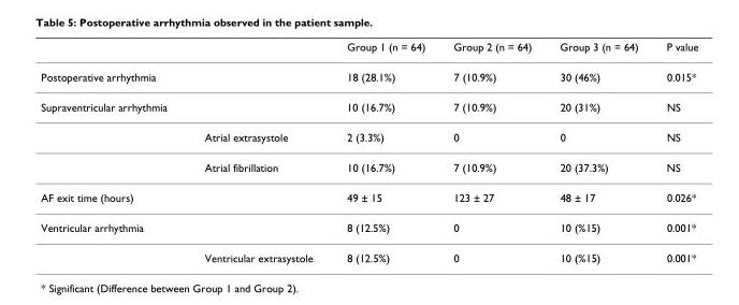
<table><thead><tr><td></td><td></td><td>Group 1 (n = 64)</td><td>Group 2 (n = 64)</td><td>Group 3 (n = 64)</td><td>P value</td></tr></thead><tbody><tr><td>Postoperative arrhythmia</td><td></td><td>18 (28.1%)</td><td>7 (10.9%)</td><td>30 (46%)</td><td>0.015*</td></tr><tr><td rowspan="3">Supraventricular arrhythmia</td><td></td><td>10 (16.7%)</td><td>7 (10.9%)</td><td>20 (31%)</td><td>NS</td></tr><tr><td>Atrial extrasystole</td><td>2 (3.3%)</td><td>0</td><td>0</td><td>NS</td></tr><tr><td>Atrial fibrillation</td><td>10 (16.7%)</td><td>7 (10.9%)</td><td>20 (37.3%)</td><td>NS</td></tr><tr><td>AF exit time (hours)</td><td></td><td>49 ± 15</td><td>123 ± 27</td><td>48 ± 17</td><td>0.026*</td></tr><tr><td rowspan="2">Ventricular arrhythmia</td><td></td><td>8 (12.5%)</td><td>0</td><td>10 (%15)</td><td>0.001*</td></tr><tr><td>Ventricular extrasystole</td><td>8 (12.5%)</td><td>0</td><td>10 (%15)</td><td>0.001*</td></tr></tbody></table>